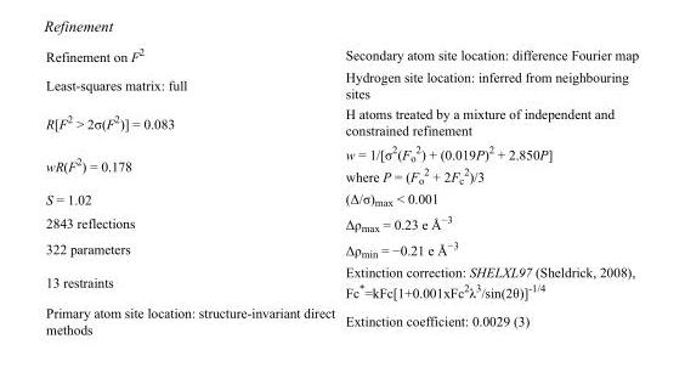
<table><tbody><tr><td>Refinement on F<sup>2</sup></td><td>Secondary atom site location: difference Fourier map</td></tr><tr><td>Least-squares matrix: full</td><td>Hydrogen site location: inferred from neighbouring sites</td></tr><tr><td>R[F<sup>2</sup> &gt; 2σ(F<sup>2</sup>)] = 0.083</td><td>H atoms treated by a mixture of independent and constrained refinement</td></tr><tr><td>wR(F<sup>2</sup>) = 0.178</td><td>w = 1/[σ<sup>2</sup>(F<sub>o</sub> <sup>2</sup>) + (0.019P)<sup>2</sup> + 2.850P] where P = (F<sub>o</sub> <sup>2</sup> + 2F<sub>c</sub> <sup>2</sup>)/3</td></tr><tr><td>S = 1.02</td><td>(Δ/σ)<sub>max</sub> &lt; 0.001</td></tr><tr><td>2843 reflections</td><td>Δρ<sub>max</sub> = 0.23 e Å<sup>−3</sup></td></tr><tr><td>322 parameters</td><td>Δρ<sub>min</sub> = −0.21 e Å<sup>−3</sup></td></tr><tr><td>13 restraints</td><td>Extinction correction: SHELXL97 (Sheldrick, 2008), Fc*=kFc[1+0.001xFc<sup>2</sup>λ<sup>3</sup>/sin(2θ)]<sup>-1/4</sup></td></tr><tr><td>Primary atom site location: structure-invariant direct methods</td><td>Extinction coefficient: 0.0029 (3)</td></tr></tbody></table>